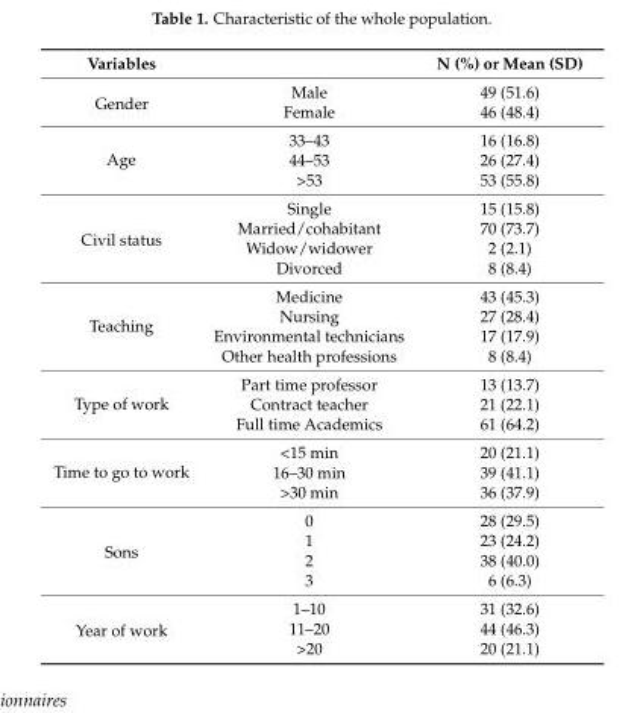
<table><thead><tr><td>Variables</td><td></td><td>N (%) or Mean (SD)</td></tr></thead><tbody><tr><td rowspan="2">Gender</td><td>Male</td><td>49 (51.6)</td></tr><tr><td>Female</td><td>46 (48.4)</td></tr><tr><td rowspan="3">Age</td><td>33–43</td><td>16 (16.8)</td></tr><tr><td>44–53</td><td>26 (27.4)</td></tr><tr><td>&gt;53</td><td>53 (55.8)</td></tr><tr><td rowspan="4">Civil status</td><td>Single</td><td>15 (15.8)</td></tr><tr><td>Married/cohabitant</td><td>70 (73.7)</td></tr><tr><td>Widow/widower</td><td>2 (2.1)</td></tr><tr><td>Divorced</td><td>8 (8.4)</td></tr><tr><td rowspan="4">Teaching</td><td>Medicine</td><td>43 (45.3)</td></tr><tr><td>Nursing</td><td>27 (28.4)</td></tr><tr><td>Environmental technicians</td><td>17 (17.9)</td></tr><tr><td>Other health professions</td><td>8 (8.4)</td></tr><tr><td rowspan="3">Type of work</td><td>Part time professor</td><td>13 (13.7)</td></tr><tr><td>Contract teacher</td><td>21 (22.1)</td></tr><tr><td>Full time Academics</td><td>61 (64.2)</td></tr><tr><td rowspan="3">Time to go to work</td><td>&lt;15 min</td><td>20 (21.1)</td></tr><tr><td>16–30 min</td><td>39 (41.1)</td></tr><tr><td>&gt;30 min</td><td>36 (37.9)</td></tr><tr><td rowspan="4">Sons</td><td>0</td><td>28 (29.5)</td></tr><tr><td>1</td><td>23 (24.2)</td></tr><tr><td>2</td><td>38 (40.0)</td></tr><tr><td>3</td><td>6 (6.3)</td></tr><tr><td rowspan="3">Year of work</td><td>1–10</td><td>31 (32.6)</td></tr><tr><td>11–20</td><td>44 (46.3)</td></tr><tr><td>&gt;20</td><td>20 (21.1)</td></tr></tbody></table>